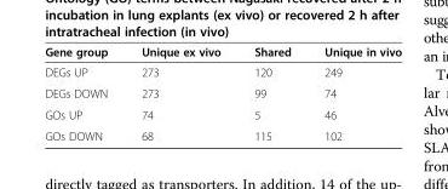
<table><thead><tr><td>Gene group</td><td>Unique ex vivo</td><td>Shared</td><td>Unique in vivo</td></tr></thead><tbody><tr><td>DEGs UP</td><td>273</td><td>120</td><td>249</td></tr><tr><td>DEGs DOWN</td><td>273</td><td>99</td><td>74</td></tr><tr><td>GOs UP</td><td>74</td><td>5</td><td>46</td></tr><tr><td>GOs DOWN</td><td>68</td><td>115</td><td>102</td></tr></tbody></table>